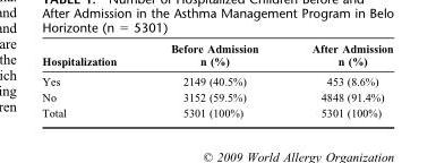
<table><thead><tr><td>Hospitalization</td><td>Before Admission n (%)</td><td>After Admission n (%)</td></tr></thead><tbody><tr><td>Yes</td><td>2149 (40.5%)</td><td>453 (8.6%)</td></tr><tr><td>No</td><td>3152 (59.5%)</td><td>4848 (91.4%)</td></tr><tr><td>Total</td><td>5301 (100%)</td><td>5301 (100%)</td></tr></tbody></table>